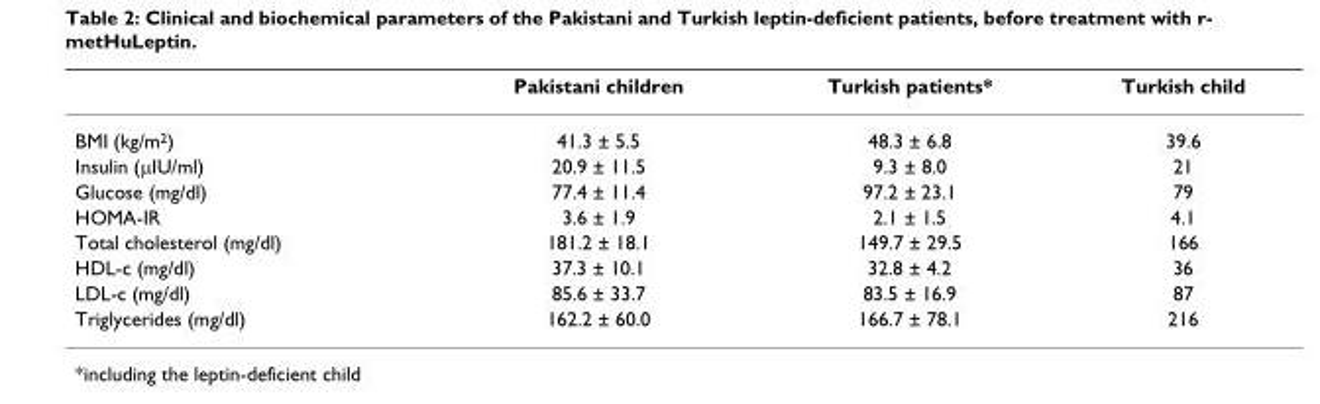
<table><thead><tr><td></td><td>Pakistani children</td><td>Turkish patients*</td><td>Turkish child</td></tr></thead><tbody><tr><td>BMI (kg/m<sup>2</sup>)</td><td>41.3 ± 5.5</td><td>48.3 ± 6.8</td><td>39.6</td></tr><tr><td>Insulin (μIU/ml)</td><td>20.9 ± 11.5</td><td>9.3 ± 8.0</td><td>21</td></tr><tr><td>Glucose (mg/dl)</td><td>77.4 ± 11.4</td><td>97.2 ± 23.1</td><td>79</td></tr><tr><td>HOMA-IR</td><td>3.6 ± 1.9</td><td>2.1 ± 1.5</td><td>4.1</td></tr><tr><td>Total cholesterol (mg/dl)</td><td>181.2 ± 18.1</td><td>149.7 ± 29.5</td><td>166</td></tr><tr><td>HDL-c (mg/dl)</td><td>37.3 ± 10.1</td><td>32.8 ± 4.2</td><td>36</td></tr><tr><td>LDL-c (mg/dl)</td><td>85.6 ± 33.7</td><td>83.5 ± 16.9</td><td>87</td></tr><tr><td>Triglycerides (mg/dl)</td><td>162.2 ± 60.0</td><td>166.7 ± 78.1</td><td>216</td></tr></tbody></table>